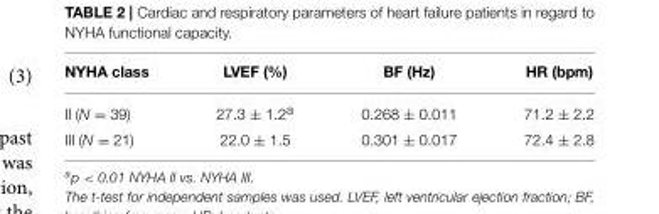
<table><thead><tr><td>NYHA class</td><td>LVEF (%)</td><td>BF (Hz)</td><td>HR (bpm)</td></tr></thead><tbody><tr><td>II (N = 39)</td><td>27.3 ± 1.2<sup>a</sup></td><td>0.268 ± 0.011</td><td>71.2 ± 2.2</td></tr><tr><td>III (N = 21)</td><td>22.0 ± 1.5</td><td>0.301 ± 0.017</td><td>72.4 ± 2.8</td></tr></tbody></table>